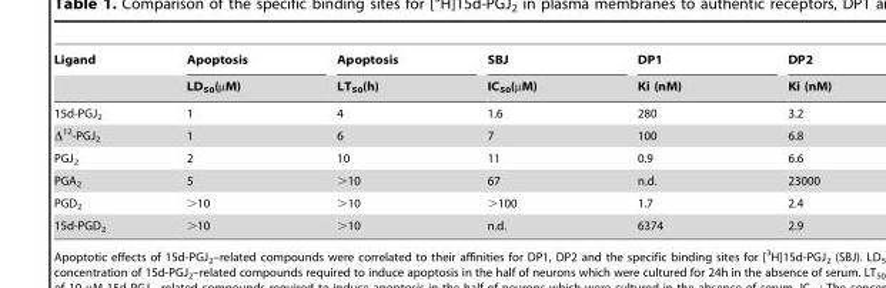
<table><thead><tr><td rowspan="2">Ligand</td><td rowspan="2">Apoptosis LD<sub>50</sub>(µM)</td><td rowspan="2">Apoptosis LT<sub>50</sub>(h)</td><td rowspan="2">SBJ IC<sub>50</sub>(µM)</td><td rowspan="2">DP1 Ki (nM)</td><td rowspan="2">DP2 Ki (nM)</td></tr><tr></tr></thead><tbody><tr><td>15d-PGJ<sub>2</sub></td><td>1</td><td>4</td><td>1.6</td><td>280</td><td>3.2</td></tr><tr><td>Δ<sup>12</sup>-PGJ<sub>2</sub></td><td>1</td><td>6</td><td>7</td><td>100</td><td>6.8</td></tr><tr><td>PGJ<sub>2</sub></td><td>2</td><td>10</td><td>11</td><td>0.9</td><td>6.6</td></tr><tr><td>PGA<sub>2</sub></td><td>5</td><td>&gt;10</td><td>67</td><td>n.d.</td><td>23000</td></tr><tr><td>PGD<sub>2</sub></td><td>&gt;10</td><td>&gt;10</td><td>&gt;100</td><td>1.7</td><td>2.4</td></tr><tr><td>15d-PGD<sub>2</sub></td><td>&gt;10</td><td>&gt;10</td><td>n.d.</td><td>6374</td><td>2.9</td></tr></tbody></table>